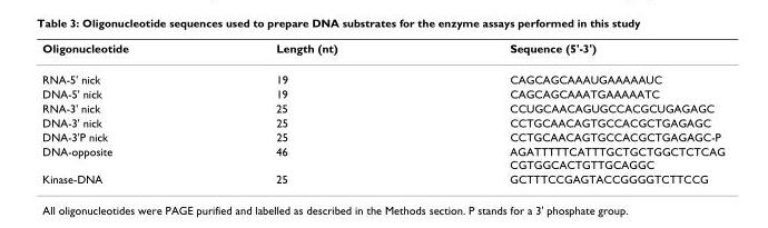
<table><thead><tr><td>Oligonucleotide</td><td>Length (nt)</td><td>Sequence (5&#x27;-3&#x27;)</td></tr></thead><tbody><tr><td>RNA-5&#x27; nick</td><td>19</td><td>CAGCAGCAAAUGAAAAAUC</td></tr><tr><td>DNA-5&#x27; nick</td><td>19</td><td>CAGCAGCAAATGAAAAATC</td></tr><tr><td>RNA-3&#x27; nick</td><td>25</td><td>CCUGCAACAGUGCCACGCUGAGAGC</td></tr><tr><td>DNA-3&#x27; nick</td><td>25</td><td>CCTGCAACAGTGCCACGCTGAGAGC</td></tr><tr><td>DNA-3&#x27;P nick</td><td>25</td><td>CCTGCAACAGTGCCACGCTGAGAGC-P</td></tr><tr><td>DNA-opposite</td><td>46</td><td>AGATTTTTCATTTGCTGCTGGCTCTCAG CGTGGCACTGTTGCAGGC</td></tr><tr><td>Kinase-DNA</td><td>25</td><td>GCTTTCCGAGTACCGGGGTCTTCCG</td></tr></tbody></table>